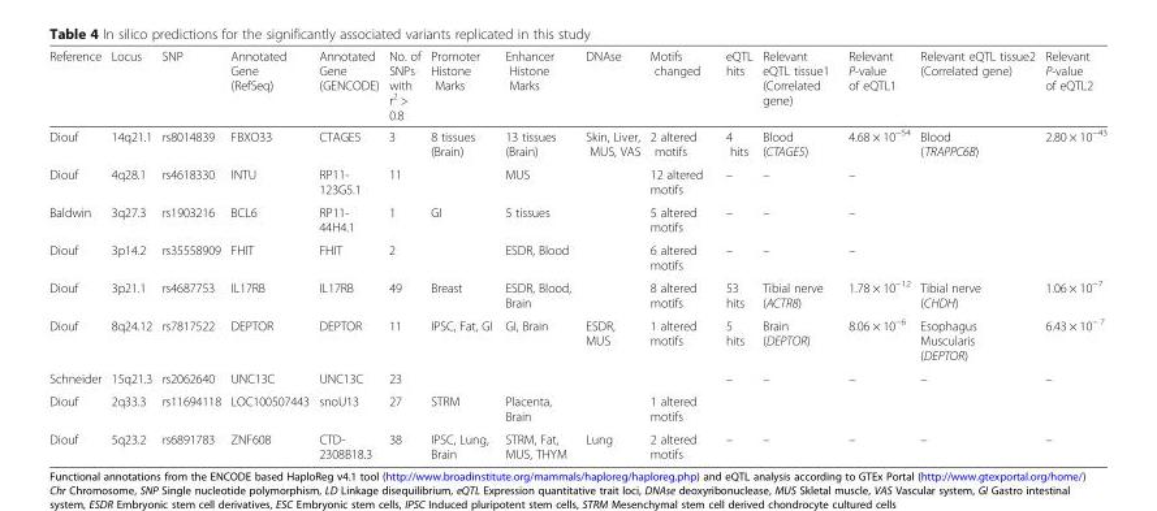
<table><thead><tr><td>Reference</td><td>Locus</td><td>SNP</td><td>Annotated Gene (RefSeq)</td><td>Annotated Gene (GENCODE)</td><td>No. of SNPs with r<sup>2</sup> &gt; 0.8</td><td>Promoter Histone Marks</td><td>Enhancer Histone Marks</td><td>DNAse</td><td>Motifs changed</td><td>eQTL hits</td><td>Relevant eQTL tissue1 (Correlated gene)</td><td>Relevant P-value of eQTL1</td><td>Relevant eQTL tissue2 (Correlated gene)</td><td>Relevant P-value of eQTL2</td></tr></thead><tbody><tr><td>Diouf</td><td>14q21.1</td><td>rs8014839</td><td>FBXO33</td><td>CTAGE5</td><td>3</td><td>8 tissues (Brain)</td><td>13 tissues (Brain)</td><td>Skin, Liver, MUS, VAS</td><td>2 altered motifs</td><td>4 hits</td><td>Blood (CTAGE5)</td><td>4.68 × 10<sup>−54</sup></td><td>Blood (TRAPPC6B)</td><td>2.80 × 10<sup>−43</sup></td></tr><tr><td>Diouf</td><td>4q28.1</td><td>rs4618330</td><td>INTU</td><td>RP11- 123G5.1</td><td>11</td><td></td><td>MUS</td><td></td><td>12 altered motifs</td><td>–</td><td>–</td><td>–</td><td></td><td></td></tr><tr><td>Baldwin</td><td>3q27.3</td><td>rs1903216</td><td>BCL6</td><td>RP11- 44H4.1</td><td>1</td><td>GI</td><td>5 tissues</td><td></td><td>5 altered motifs</td><td>–</td><td>–</td><td>–</td><td></td><td></td></tr><tr><td>Diouf</td><td>3p14.2</td><td>rs35558909</td><td>FHIT</td><td>FHIT</td><td>2</td><td></td><td>ESDR, Blood</td><td></td><td>6 altered motifs</td><td>–</td><td>–</td><td>–</td><td></td><td></td></tr><tr><td>Diouf</td><td>3p21.1</td><td>rs4687753</td><td>IL17RB</td><td>IL17RB</td><td>49</td><td>Breast</td><td>ESDR, Blood, Brain</td><td></td><td>8 altered motifs</td><td>53 hits</td><td>Tibial nerve (ACTR8)</td><td>1.78 × 10<sup>−12</sup></td><td>Tibial nerve (CHDH)</td><td>1.06 × 10<sup>−7</sup></td></tr><tr><td>Diouf</td><td>8q24.12</td><td>rs7817522</td><td>DEPTOR</td><td>DEPTOR</td><td>11</td><td>IPSC, Fat, GI</td><td>GI, Brain</td><td>ESDR, MUS</td><td>1 altered motifs</td><td>5 hits</td><td>Brain (DEPTOR)</td><td>8.06 × 10<sup>−6</sup></td><td>Esophagus Muscularis (DEPTOR)</td><td>6.43 × 10<sup>− 7</sup></td></tr><tr><td>Schneider</td><td>15q21.3</td><td>rs2062640</td><td>UNC13C</td><td>UNC13C</td><td>23</td><td></td><td></td><td></td><td></td><td>–</td><td>–</td><td>–</td><td>–</td><td>–</td></tr><tr><td>Diouf</td><td>2q33.3</td><td>rs11694118</td><td>LOC100507443</td><td>snoU13</td><td>27</td><td>STRM</td><td>Placenta, Brain</td><td></td><td>1 altered motifs</td><td></td><td></td><td></td><td></td><td></td></tr><tr><td>Diouf</td><td>5q23.2</td><td>rs6891783</td><td>ZNF608</td><td>CTD- 2308B18.3</td><td>38</td><td>IPSC, Lung, Brain</td><td>STRM, Fat, MUS, THYM</td><td>Lung</td><td>2 altered motifs</td><td>–</td><td>–</td><td>–</td><td>–</td><td>–</td></tr></tbody></table>